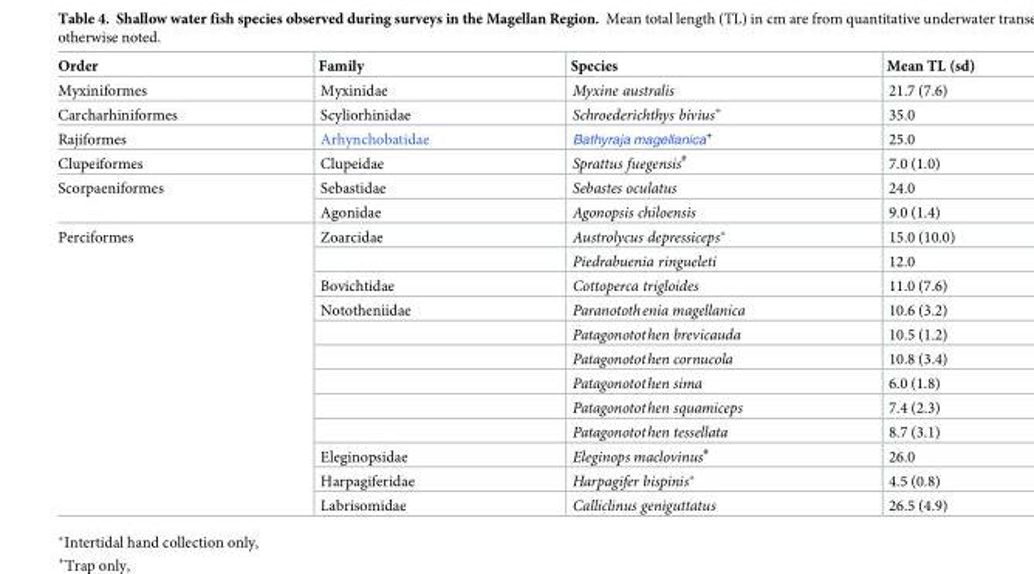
<table><thead><tr><td>Order</td><td>Family</td><td>Species</td><td>Mean TL (sd)</td></tr></thead><tbody><tr><td>Myxiniformes</td><td>Myxinidae</td><td>Myxine australis</td><td>21.7 (7.6)</td></tr><tr><td>Carcharhiniformes</td><td>Scyliorhinidae</td><td>Schroederichthys bivius<sup>+</sup></td><td>35.0</td></tr><tr><td>Rajiformes</td><td>Arhynchobatidae</td><td>Bathyraja magellanica<sup>+</sup></td><td>25.0</td></tr><tr><td>Clupeiformes</td><td>Clupeidae</td><td>Sprattus fuegensis<sup>#</sup></td><td>7.0 (1.0)</td></tr><tr><td rowspan="2">Scorpaeniformes</td><td>Sebastidae</td><td>Sebastes oculatus</td><td>24.0</td></tr><tr><td>Agonidae</td><td>Agonopsis chiloensis</td><td>9.0 (1.4)</td></tr><tr><td rowspan="12">Perciformes</td><td>Zoarcidae</td><td>Austrolycus depressiceps*</td><td>15.0 (10.0)</td></tr><tr><td></td><td>Piedrabuenia ringueleti</td><td>12.0</td></tr><tr><td>Bovichtidae</td><td>Cottoperca trigloides</td><td>11.0 (7.6)</td></tr><tr><td>Nototheniidae</td><td>Paranotothenia magellanica</td><td>10.6 (3.2)</td></tr><tr><td></td><td>Patagonotothen brevicauda</td><td>10.5 (1.2)</td></tr><tr><td></td><td>Patagonotothen cornucola</td><td>10.8 (3.4)</td></tr><tr><td></td><td>Patagonotothen sima</td><td>6.0 (1.8)</td></tr><tr><td></td><td>Patagonotothen squamiceps</td><td>7.4 (2.3)</td></tr><tr><td></td><td>Patagonotothen tessellata</td><td>8.7 (3.1)</td></tr><tr><td>Eleginopsidae</td><td>Eleginops maclovinus<sup>#</sup></td><td>26.0</td></tr><tr><td>Harpagiferidae</td><td>Harpagifer bispinis*</td><td>4.5 (0.8)</td></tr><tr><td>Labrisomidae</td><td>Calliclinus geniguttatus</td><td>26.5 (4.9)</td></tr></tbody></table>